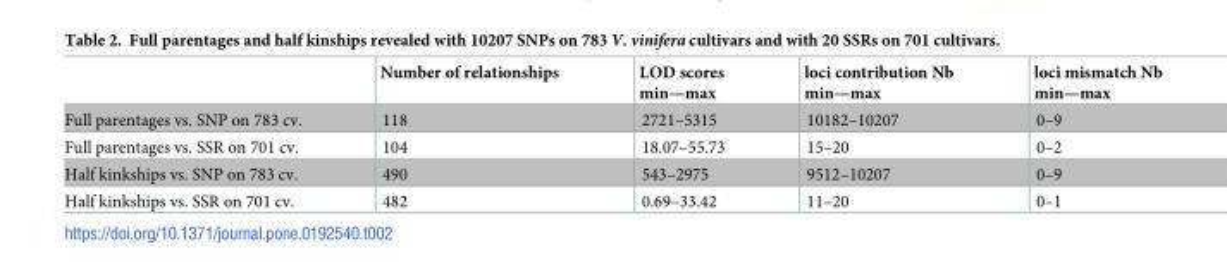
<table><thead><tr><td></td><td>Number of relationships</td><td>LOD scores min—max</td><td>loci contribution Nb min—max</td><td>loci mismatch Nb min—max</td></tr></thead><tbody><tr><td>Full parentages vs. SNP on 783 cv.</td><td>118</td><td>2721–5315</td><td>10182–10207</td><td>0–9</td></tr><tr><td>Full parentages vs. SSR on 701 cv.</td><td>104</td><td>18.07–55.73</td><td>15–20</td><td>0–2</td></tr><tr><td>Half kinkships vs. SNP on 783 cv.</td><td>490</td><td>543–2975</td><td>9512–10207</td><td>0–9</td></tr><tr><td>Half kinkships vs. SSR on 701 cv.</td><td>482</td><td>0.69–33.42</td><td>11–20</td><td>0–1</td></tr></tbody></table>